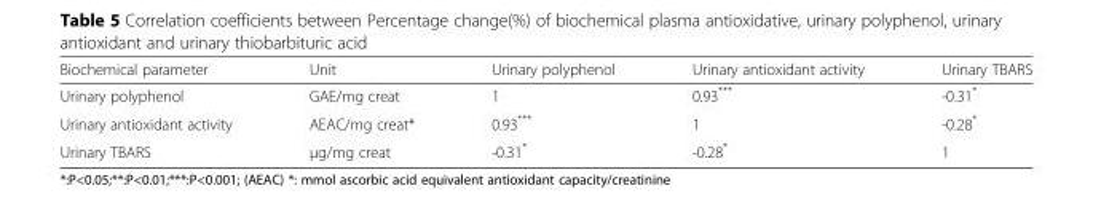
<table><thead><tr><td>Biochemical parameter</td><td>Unit</td><td>Urinary polyphenol</td><td>Urinary antioxidant activity</td><td>Urinary TBARS</td></tr></thead><tbody><tr><td>Urinary polyphenol</td><td>GAE/mg creat</td><td>1</td><td>0.93***</td><td>-0.31*</td></tr><tr><td>Urinary antioxidant activity</td><td>AEAC/mg creat*</td><td>0.93***</td><td>1</td><td>-0.28*</td></tr><tr><td>Urinary TBARS</td><td>μg/mg creat</td><td>-0.31*</td><td>-0.28*</td><td>1</td></tr></tbody></table>